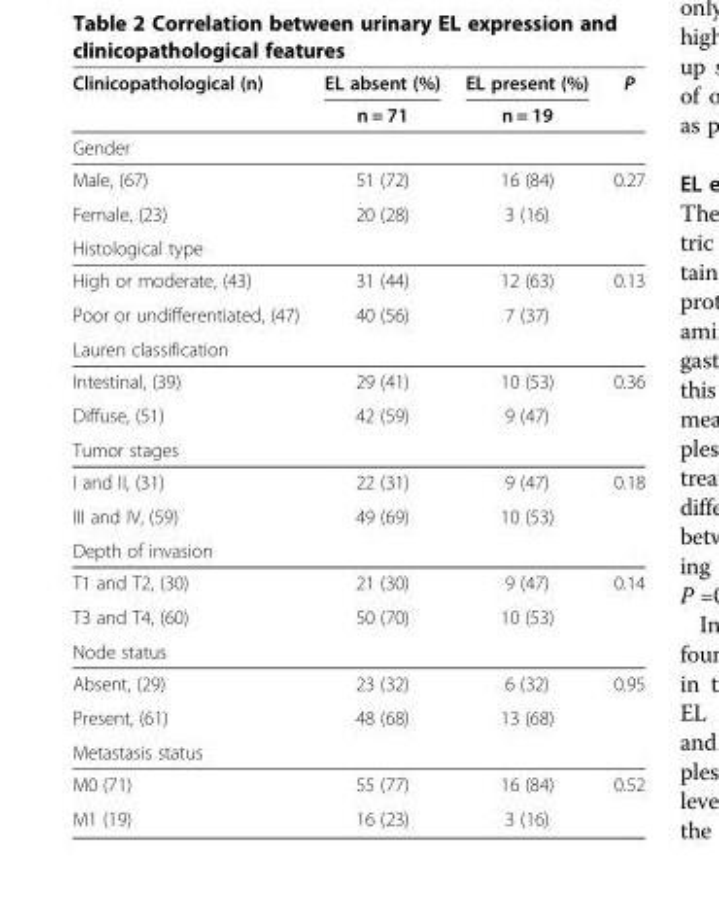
<table><thead><tr><td rowspan="2">Clinicopathological (n)</td><td rowspan="2">EL absent (%) n = 71</td><td rowspan="2">EL present (%) n = 19</td><td rowspan="2">P</td></tr><tr></tr></thead><tbody><tr><td colspan="4">Gender</td></tr><tr><td>Male, (67)</td><td>51 (72)</td><td>16 (84)</td><td>0.27</td></tr><tr><td>Female, (23)</td><td>20 (28)</td><td>3 (16)</td><td></td></tr><tr><td colspan="4">Histological type</td></tr><tr><td>High or moderate, (43)</td><td>31 (44)</td><td>12 (63)</td><td>0.13</td></tr><tr><td>Poor or undifferentiated, (47)</td><td>40 (56)</td><td>7 (37)</td><td></td></tr><tr><td colspan="4">Lauren classification</td></tr><tr><td>Intestinal, (39)</td><td>29 (41)</td><td>10 (53)</td><td>0.36</td></tr><tr><td>Diffuse, (51)</td><td>42 (59)</td><td>9 (47)</td><td></td></tr><tr><td colspan="4">Tumor stages</td></tr><tr><td>Ι and ΙΙ, (31)</td><td>22 (31)</td><td>9 (47)</td><td>0.18</td></tr><tr><td>ΙΙΙ and ΙV, (59)</td><td>49 (69)</td><td>10 (53)</td><td></td></tr><tr><td colspan="4">Depth of invasion</td></tr><tr><td>T1 and T2, (30)</td><td>21 (30)</td><td>9 (47)</td><td>0.14</td></tr><tr><td>T3 and T4, (60)</td><td>50 (70)</td><td>10 (53)</td><td></td></tr><tr><td colspan="4">Node status</td></tr><tr><td>Absent, (29)</td><td>23 (32)</td><td>6 (32)</td><td>0.95</td></tr><tr><td>Present, (61)</td><td>48 (68)</td><td>13 (68)</td><td></td></tr><tr><td colspan="4">Metastasis status</td></tr><tr><td>M0 (71)</td><td>55 (77)</td><td>16 (84)</td><td rowspan="2">0.52</td></tr><tr><td>M1 (19)</td><td>16 (23)</td><td>3 (16)</td></tr></tbody></table>